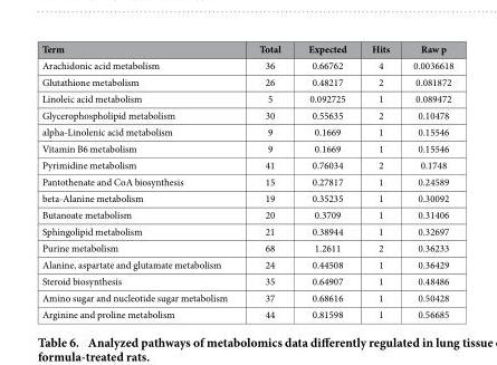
<table><thead><tr><td>Term</td><td>Total</td><td>Expected</td><td>Hits</td><td>Raw p</td></tr></thead><tbody><tr><td>Arachidonic acid metabolism</td><td>36</td><td>0.66762</td><td>4</td><td>0.0036618</td></tr><tr><td>Glutathione metabolism</td><td>26</td><td>0.48217</td><td>2</td><td>0.081872</td></tr><tr><td>Linoleic acid metabolism</td><td>5</td><td>0.092725</td><td>1</td><td>0.089472</td></tr><tr><td>Glycerophospholipid metabolism</td><td>30</td><td>0.55635</td><td>2</td><td>0.10478</td></tr><tr><td>alpha-Linolenic acid metabolism</td><td>9</td><td>0.1669</td><td>1</td><td>0.15546</td></tr><tr><td>Vitamin B6 metabolism</td><td>9</td><td>0.1669</td><td>1</td><td>0.15546</td></tr><tr><td>Pyrimidine metabolism</td><td>41</td><td>0.76034</td><td>2</td><td>0.1748</td></tr><tr><td>Pantothenate and CoA biosynthesis</td><td>15</td><td>0.27817</td><td>1</td><td>0.24589</td></tr><tr><td>beta-Alanine metabolism</td><td>19</td><td>0.35235</td><td>1</td><td>0.30092</td></tr><tr><td>Butanoate metabolism</td><td>20</td><td>0.3709</td><td>1</td><td>0.31406</td></tr><tr><td>Sphingolipid metabolism</td><td>21</td><td>0.38944</td><td>1</td><td>0.32697</td></tr><tr><td>Purine metabolism</td><td>68</td><td>1.2611</td><td>2</td><td>0.36233</td></tr><tr><td>Alanine, aspartate and glutamate metabolism</td><td>24</td><td>0.44508</td><td>1</td><td>0.36429</td></tr><tr><td>Steroid biosynthesis</td><td>35</td><td>0.64907</td><td>1</td><td>0.48486</td></tr><tr><td>Amino sugar and nucleotide sugar metabolism</td><td>37</td><td>0.68616</td><td>1</td><td>0.50428</td></tr><tr><td>Arginine and proline metabolism</td><td>44</td><td>0.81598</td><td>1</td><td>0.56685</td></tr></tbody></table>